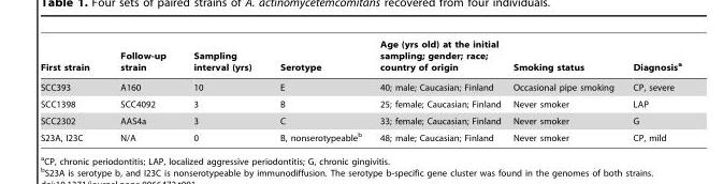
<table><thead><tr><td>First strain</td><td>Follow-up strain</td><td>Sampling interval (yrs)</td><td>Serotype</td><td>Age (yrs old) at the initial sampling; gender; race; country of origin</td><td>Smoking status</td><td>Diagnosis<sup>a</sup></td></tr></thead><tbody><tr><td>SCC393</td><td>A160</td><td>10</td><td>E</td><td>40; male; Caucasian; Finland</td><td>Occasional pipe smoking</td><td>CP, severe</td></tr><tr><td>SCC1398</td><td>SCC4092</td><td>3</td><td>B</td><td>25; female; Caucasian; Finland</td><td>Never smoker</td><td>LAP</td></tr><tr><td>SCC2302</td><td>AAS4a</td><td>3</td><td>C</td><td>33; female; Caucasian; Finland</td><td>Never smoker</td><td>G</td></tr><tr><td>S23A, I23C</td><td>N/A</td><td>0</td><td>B, nonserotypeable<sup>b</sup></td><td>48; male; Caucasian; Finland</td><td>Never smoker</td><td>CP, mild</td></tr></tbody></table>